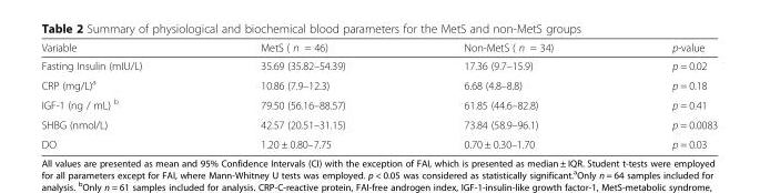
<table><thead><tr><td>Variable</td><td>MetS ( n = 46)</td><td>Non-MetS ( n = 34)</td><td>p-value</td></tr></thead><tbody><tr><td>Fasting Insulin (mIU/L)</td><td>35.69 (35.82–54.39)</td><td>17.36 (9.7–15.9)</td><td>p = 0.02</td></tr><tr><td>CRP (mg/L)<sup>a</sup></td><td>10.86 (7.9–12.3)</td><td>6.68 (4.8–8.8)</td><td>p = 0.18</td></tr><tr><td>IGF-1 (ng / mL) <sup>b</sup></td><td>79.50 (56.16–88.57)</td><td>61.85 (44.6–82.8)</td><td>p = 0.41</td></tr><tr><td>SHBG (nmol/L)</td><td>42.57 (20.51–31.15)</td><td>73.84 (58.9–96.1)</td><td>p = 0.0083</td></tr><tr><td>DO</td><td>1.20 ± 0.80–7.75</td><td>0.70 ± 0.30–1.70</td><td>p = 0.03</td></tr></tbody></table>